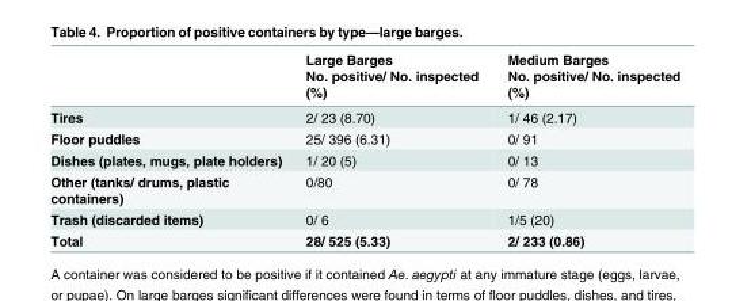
<table><thead><tr><td rowspan="2"></td><td rowspan="2">Large Barges No. positive/ No. inspected (%)</td><td rowspan="2">Medium Barges No. positive/ No. inspected (%)</td></tr><tr></tr></thead><tbody><tr><td>Tires</td><td>2/ 23 (8.70)</td><td>1/ 46 (2.17)</td></tr><tr><td>Floor puddles</td><td>25/ 396 (6.31)</td><td>0/ 91</td></tr><tr><td>Dishes (plates, mugs, plate holders)</td><td>1/ 20 (5)</td><td>0/ 13</td></tr><tr><td>Other (tanks/ drums, plastic containers)</td><td>0/80</td><td>0/ 78</td></tr><tr><td>Trash (discarded items)</td><td>0/ 6</td><td>1/5 (20)</td></tr><tr><td>Total</td><td>28/ 525 (5.33)</td><td>2/ 233 (0.86)</td></tr></tbody></table>